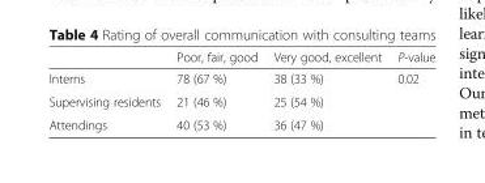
<table><thead><tr><td></td><td>Poor, fair, good</td><td>Very good, excellent</td><td>P-value</td></tr></thead><tbody><tr><td>Interns</td><td>78 (67 %)</td><td>38 (33 %)</td><td>0.02</td></tr><tr><td>Supervising residents</td><td>21 (46 %)</td><td>25 (54 %)</td><td></td></tr><tr><td>Attendings</td><td>40 (53 %)</td><td>36 (47 %)</td><td></td></tr></tbody></table>